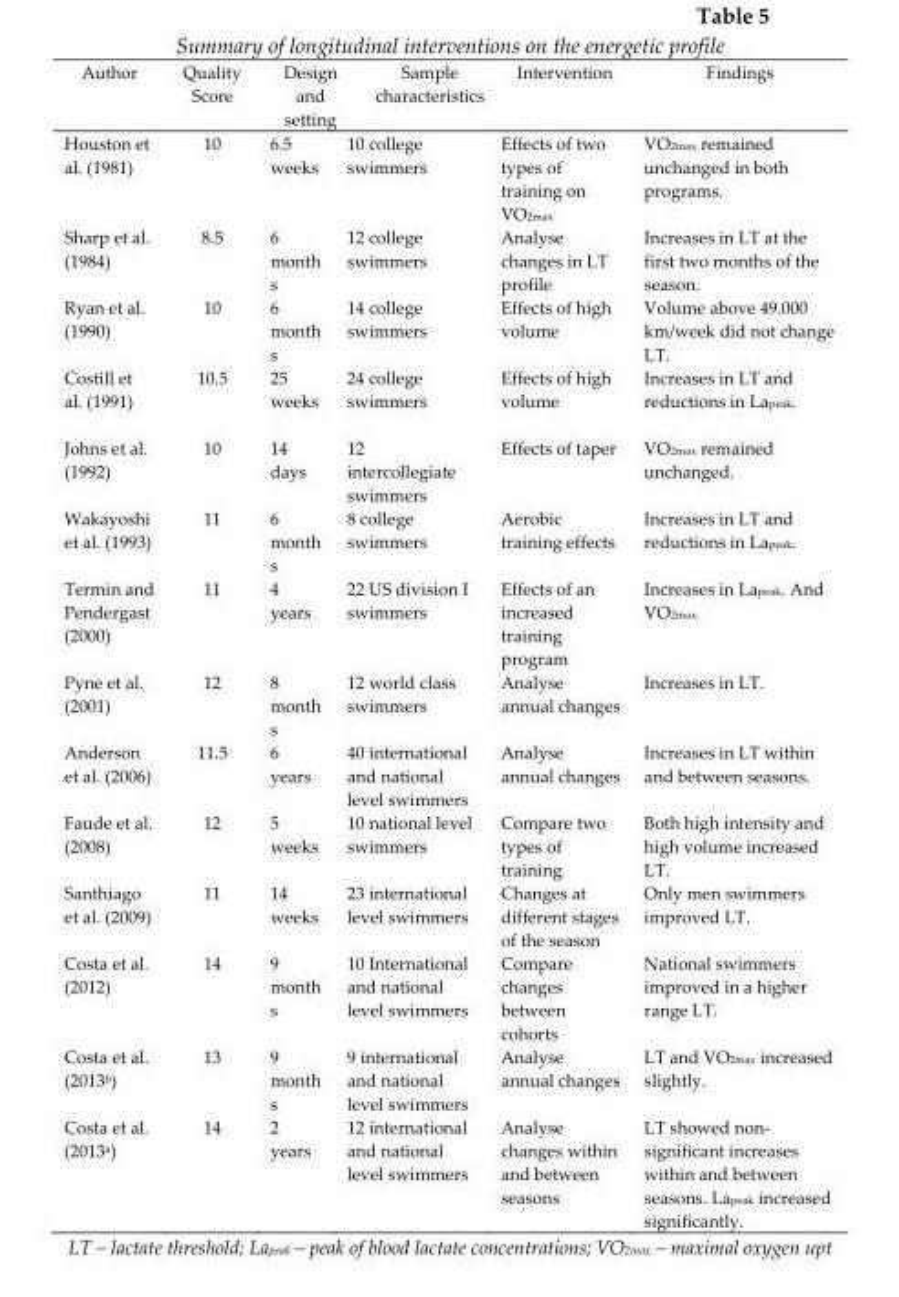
<table><thead><tr><td>Author</td><td>Quality Score</td><td>Design and setting</td><td>Sample characteristics</td><td>Intervention</td><td>Findings</td></tr></thead><tbody><tr><td>Houston et al. (1981)</td><td>10</td><td>6.5 weeks</td><td>10 college swimmers</td><td>Effects of two types of training on VO<sub>2max</sub></td><td>VO<sub>2max</sub> remained unchanged in both programs.</td></tr><tr><td>Sharp et al. (1984)</td><td>8.5</td><td>6 month s</td><td>12 college swimmers</td><td>Analyse changes in LT profile</td><td>Increases in LT at the first two months of the season.</td></tr><tr><td>Ryan et al. (1990)</td><td>10</td><td>6 month s</td><td>14 college swimmers</td><td>Effects of high volume</td><td>Volume above 49.000 km/week did not change LT.</td></tr><tr><td>Costill et al. (1991)</td><td>10.5</td><td>25 weeks</td><td>24 college swimmers</td><td>Effects of high volume</td><td>Increases in LT and reductions in La<sub>peak</sub>.</td></tr><tr><td>Johns et al. (1992)</td><td>10</td><td>14 days</td><td>12 intercollegiate swimmers</td><td>Effects of taper</td><td>VO<sub>2max</sub> remained unchanged.</td></tr><tr><td>Wakayoshi et al. (1993)</td><td>11</td><td>6 month s</td><td>8 college swimmers</td><td>Aerobic training effects</td><td>Increases in LT and reductions in La<sub>peak</sub>.</td></tr><tr><td>Termin and Pendergast (2000)</td><td>11</td><td>4 years</td><td>22 US division I swimmers</td><td>Effects of an increased training program</td><td>Increases in La<sub>peak</sub>. And VO<sub>2max.</sub></td></tr><tr><td>Pyne et al. (2001)</td><td>12</td><td>8 month s</td><td>12 world class swimmers</td><td>Analyse annual changes</td><td>Increases in LT.</td></tr><tr><td>Anderson et al. (2006)</td><td>11.5</td><td>6 years</td><td>40 international and national level swimmers</td><td>Analyse annual changes</td><td>Increases in LT within and between seasons.</td></tr><tr><td>Faude et al. (2008)</td><td>12</td><td>5 weeks</td><td>10 national level swimmers</td><td>Compare two types of training</td><td>Both high intensity and high volume increased LT.</td></tr><tr><td>Santhiago et al. (2009)</td><td>11</td><td>14 weeks</td><td>23 international level swimmers</td><td>Changes at different stages of the season</td><td>Only men swimmers improved LT.</td></tr><tr><td>Costa et al. (2012)</td><td>14</td><td>9 month s</td><td>10 International and national level swimmers</td><td>Compare changes between cohorts</td><td>National swimmers improved in a higher range LT.</td></tr><tr><td>Costa et al. (2013<sup>b</sup>)</td><td>13</td><td>9 month s</td><td>9 international and national level swimmers</td><td>Analyse annual changes</td><td>LT and VO<sub>2max</sub> increased slightly.</td></tr><tr><td>Costa et al. (2013<sup>a</sup>)</td><td>14</td><td>2 years</td><td>12 international and national level swimmers</td><td>Analyse changes within and between seasons</td><td>LT showed non- significant increases within and between seasons. La<sub>peak</sub> increased significantly.</td></tr></tbody></table>